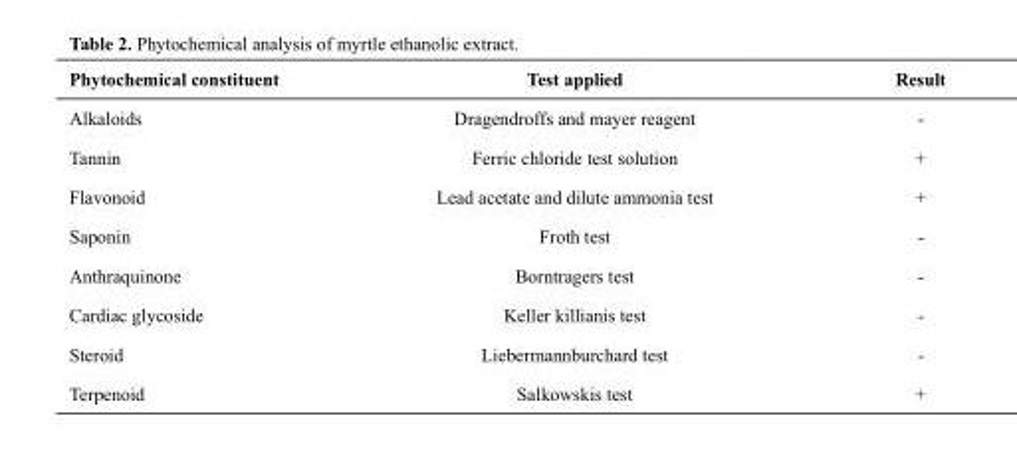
<table><thead><tr><td>Phytochemical constituent</td><td>Test applied</td><td>Result</td></tr></thead><tbody><tr><td>Alkaloids</td><td>Dragendroffs and mayer reagent</td><td>-</td></tr><tr><td>Tannin</td><td>Ferric chloride test solution</td><td>+</td></tr><tr><td>Flavonoid</td><td>Lead acetate and dilute ammonia test</td><td>+</td></tr><tr><td>Saponin</td><td>Froth test</td><td>-</td></tr><tr><td>Anthraquinone</td><td>Borntragers test</td><td>-</td></tr><tr><td>Cardiac glycoside</td><td>Keller killianis test</td><td>-</td></tr><tr><td>Steroid</td><td>Liebermannburchard test</td><td>-</td></tr><tr><td>Terpenoid</td><td>Salkowskis test</td><td>+</td></tr></tbody></table>